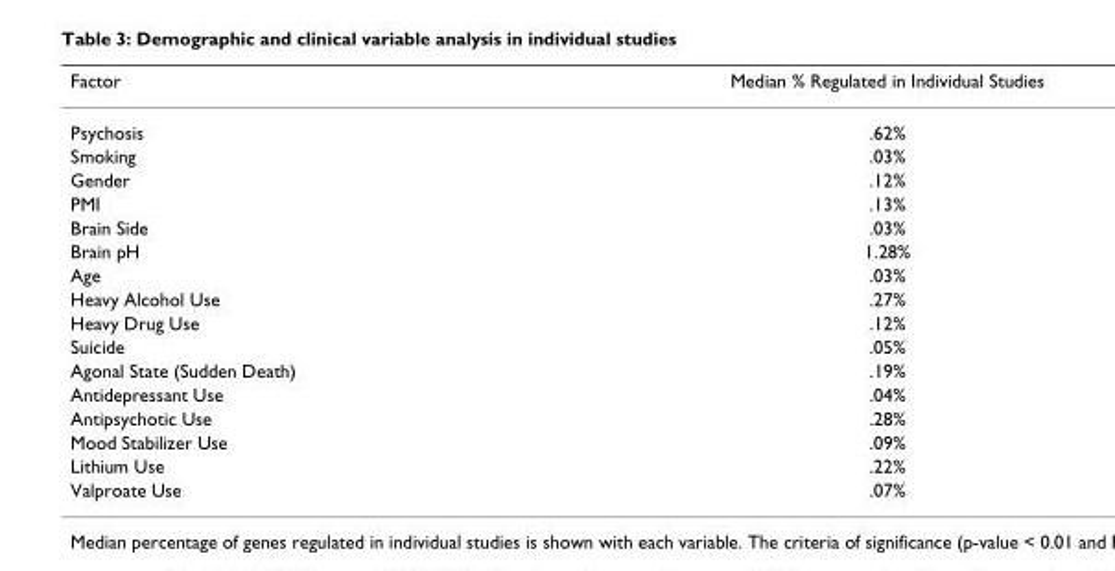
<table><thead><tr><td>Factor</td><td>Median % Regulated in Individual Studies</td></tr></thead><tbody><tr><td>Psychosis</td><td>.62%</td></tr><tr><td>Smoking</td><td>.03%</td></tr><tr><td>Gender</td><td>.12%</td></tr><tr><td>PMI</td><td>.13%</td></tr><tr><td>Brain Side</td><td>.03%</td></tr><tr><td>Brain pH</td><td>1.28%</td></tr><tr><td>Age</td><td>.03%</td></tr><tr><td>Heavy Alcohol Use</td><td>.27%</td></tr><tr><td>Heavy Drug Use</td><td>.12%</td></tr><tr><td>Suicide</td><td>.05%</td></tr><tr><td>Agonal State (Sudden Death)</td><td>.19%</td></tr><tr><td>Antidepressant Use</td><td>.04%</td></tr><tr><td>Antipsychotic Use</td><td>.28%</td></tr><tr><td>Mood Stabilizer Use</td><td>.09%</td></tr><tr><td>Lithium Use</td><td>.22%</td></tr><tr><td>Valproate Use</td><td>.07%</td></tr></tbody></table>